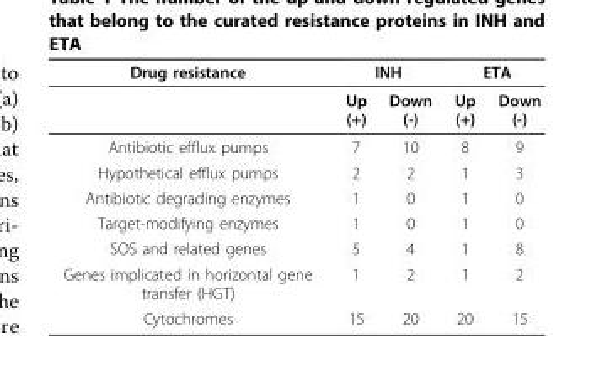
<table><thead><tr><td rowspan="2">Drug resistance</td><td colspan="2">INH</td><td colspan="2">ETA</td></tr><tr><td>Up (+)</td><td>Down (-)</td><td>Up (+)</td><td>Down (-)</td></tr></thead><tbody><tr><td>Antibiotic efflux pumps</td><td>7</td><td>10</td><td>8</td><td>9</td></tr><tr><td>Hypothetical efflux pumps</td><td>2</td><td>2</td><td>1</td><td>3</td></tr><tr><td>Antibiotic degrading enzymes</td><td>1</td><td>0</td><td>1</td><td>0</td></tr><tr><td>Target-modifying enzymes</td><td>1</td><td>0</td><td>1</td><td>0</td></tr><tr><td>SOS and related genes</td><td>5</td><td>4</td><td>1</td><td>8</td></tr><tr><td>Genes implicated in horizontal gene transfer (HGT)</td><td>1</td><td>2</td><td>1</td><td>2</td></tr><tr><td>Cytochromes</td><td>15</td><td>20</td><td>20</td><td>15</td></tr></tbody></table>